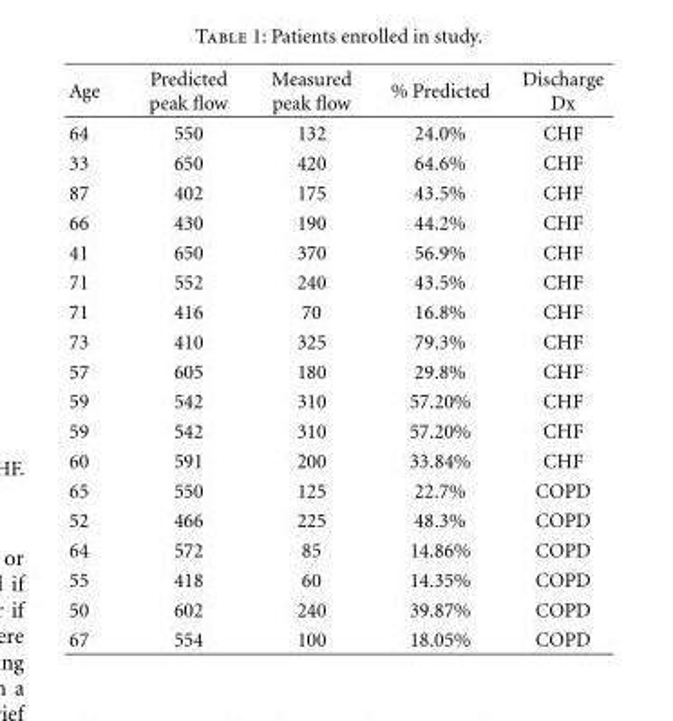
<table><thead><tr><td>Age</td><td>Predicted peak flow</td><td>Measured peak flow</td><td>% Predicted</td><td>Discharge Dx</td></tr></thead><tbody><tr><td>64</td><td>550</td><td>132</td><td>24.0%</td><td>CHF</td></tr><tr><td>33</td><td>650</td><td>420</td><td>64.6%</td><td>CHF</td></tr><tr><td>87</td><td>402</td><td>175</td><td>43.5%</td><td>CHF</td></tr><tr><td>66</td><td>430</td><td>190</td><td>44.2%</td><td>CHF</td></tr><tr><td>41</td><td>650</td><td>370</td><td>56.9%</td><td>CHF</td></tr><tr><td>71</td><td>552</td><td>240</td><td>43.5%</td><td>CHF</td></tr><tr><td>71</td><td>416</td><td>70</td><td>16.8%</td><td>CHF</td></tr><tr><td>73</td><td>410</td><td>325</td><td>79.3%</td><td>CHF</td></tr><tr><td>57</td><td>605</td><td>180</td><td>29.8%</td><td>CHF</td></tr><tr><td>59</td><td>542</td><td>310</td><td>57.20%</td><td>CHF</td></tr><tr><td>59</td><td>542</td><td>310</td><td>57.20%</td><td>CHF</td></tr><tr><td>60</td><td>591</td><td>200</td><td>33.84%</td><td>CHF</td></tr><tr><td>65</td><td>550</td><td>125</td><td>22.7%</td><td>COPD</td></tr><tr><td>52</td><td>466</td><td>225</td><td>48.3%</td><td>COPD</td></tr><tr><td>64</td><td>572</td><td>85</td><td>14.86%</td><td>COPD</td></tr><tr><td>55</td><td>418</td><td>60</td><td>14.35%</td><td>COPD</td></tr><tr><td>50</td><td>602</td><td>240</td><td>39.87%</td><td>COPD</td></tr><tr><td>67</td><td>554</td><td>100</td><td>18.05%</td><td>COPD</td></tr></tbody></table>